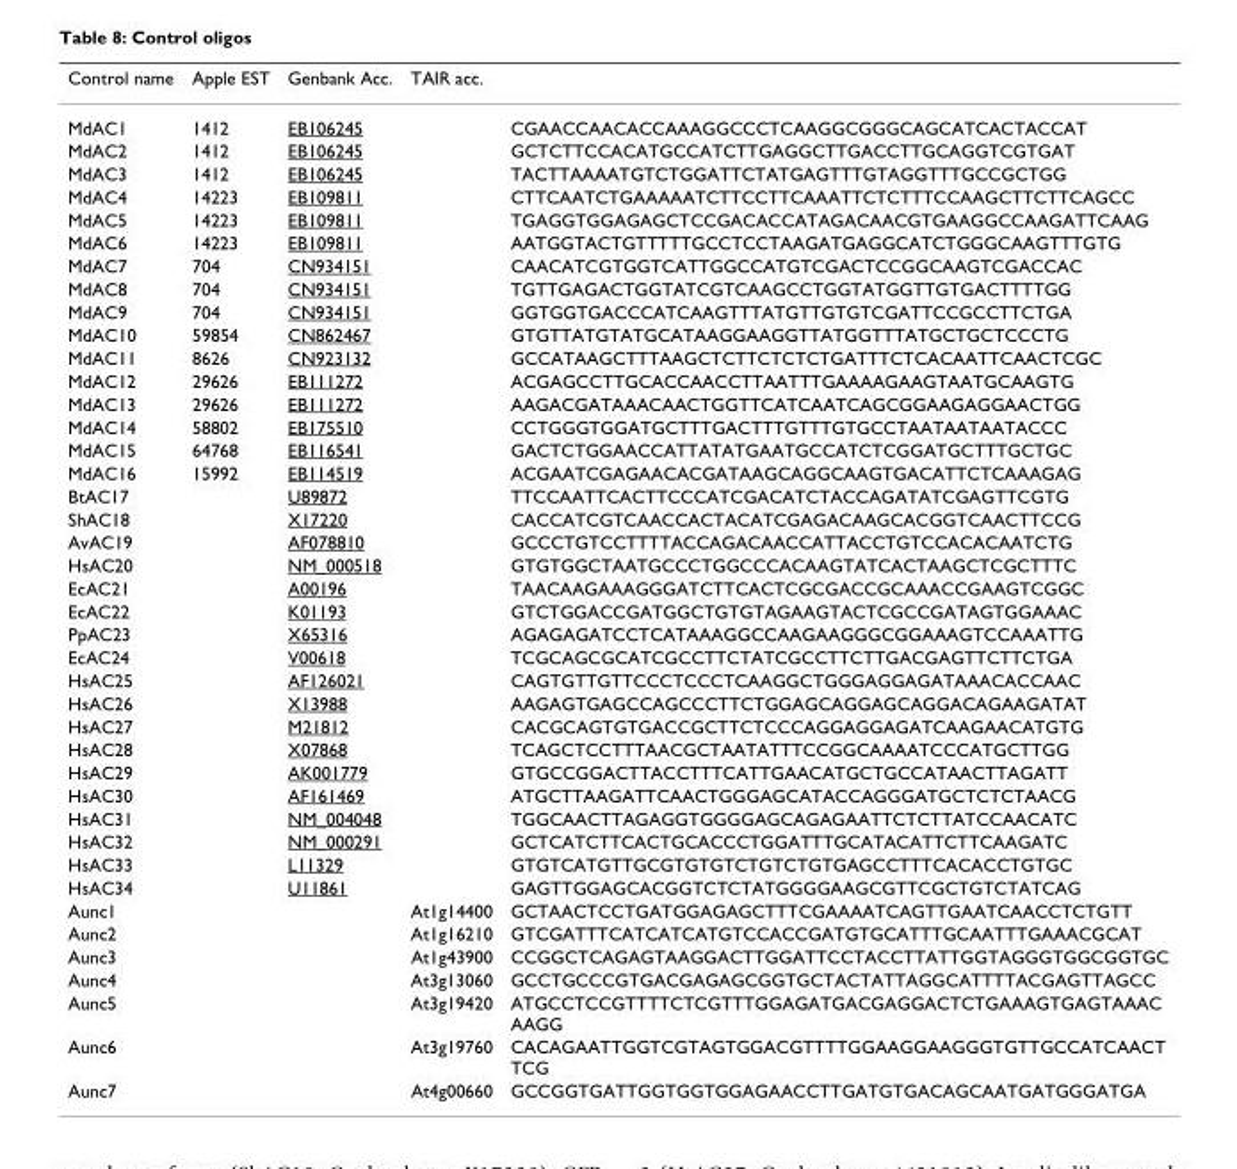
<table><thead><tr><td>Control name</td><td>Apple EST</td><td>Genbank Acc.</td><td>TAIR acc.</td><td></td></tr></thead><tbody><tr><td>MdAC1</td><td>1412</td><td>EB106245</td><td></td><td>CGAACCAACACCAAAGGCCCTCAAGGCGGGCAGCATCACTACCAT</td></tr><tr><td>MdAC2</td><td>1412</td><td>EB106245</td><td></td><td>GCTCTTCCACATGCCATCTTGAGGCTTGACCTTGCAGGTCGTGAT</td></tr><tr><td>MdAC3</td><td>1412</td><td>EB106245</td><td></td><td>TACTTAAAATGTCTGGATTCTATGAGTTTGTAGGTTTGCCGCTGG</td></tr><tr><td>MdAC4</td><td>14223</td><td>EB109811</td><td></td><td>CTTCAATCTGAAAAATCTTCCTTCAAATTCTCTTTCCAAGCTTCTTCAGCC</td></tr><tr><td>MdAC5</td><td>14223</td><td>EB109811</td><td></td><td>TGAGGTGGAGAGCTCCGACACCATAGACAACGTGAAGGCCAAGATTCAAG</td></tr><tr><td>MdAC6</td><td>14223</td><td>EB109811</td><td></td><td>AATGGTACTGTTTTTGCCTCCTAAGATGAGGCATCTGGGCAAGTTTGTG</td></tr><tr><td>MdAC7</td><td>704</td><td>CN934151</td><td></td><td>CAACATCGTGGTCATTGGCCATGTCGACTCCGGCAAGTCGACCAC</td></tr><tr><td>MdAC8</td><td>704</td><td>CN934151</td><td></td><td>TGTTGAGACTGGTATCGTCAAGCCTGGTATGGTTGTGACTTTTGG</td></tr><tr><td>MdAC9</td><td>704</td><td>CN934151</td><td></td><td>GGTGGTGACCCATCAAGTTTATGTTGTGTCGATTCCGCCTTCTGA</td></tr><tr><td>MdAC10</td><td>59854</td><td>CN862467</td><td></td><td>GTGTTATGTATGCATAAGGAAGGTTATGGTTTATGCTGCTCCCTG</td></tr><tr><td>MdAC11</td><td>8626</td><td>CN923132</td><td></td><td>GCCATAAGCTTTAAGCTCTTCTCTCTGATTTCTCACAATTCAACTCGC</td></tr><tr><td>MdAC12</td><td>29626</td><td>EB111272</td><td></td><td>ACGAGCCTTGCACCAACCTTAATTTGAAAAGAAGTAATGCAAGTG</td></tr><tr><td>MdAC13</td><td>29626</td><td>EB111272</td><td></td><td>AAGACGATAAACAACTGGTTCATCAATCAGCGGAAGAGGAACTGG</td></tr><tr><td>MdAC14</td><td>58802</td><td>EB175510</td><td></td><td>CCTGGGTGGATGCTTTGACTTTGTTTGTGCCTAATAATAATACCC</td></tr><tr><td>MdAC15</td><td>64768</td><td>EB116541</td><td></td><td>GACTCTGGAACCATTATATGAATGCCATCTCGGATGCTTTGCTGC</td></tr><tr><td>MdAC16</td><td>15992</td><td>EB114519</td><td></td><td>ACGAATCGAGAACACGATAAGCAGGCAAGTGACATTCTCAAAGAG</td></tr><tr><td>BtAC17</td><td></td><td>U89872</td><td></td><td>TTCCAATTCACTTCCCATCGACATCTACCAGATATCGAGTTCGTG</td></tr><tr><td>ShAC18</td><td></td><td>X17220</td><td></td><td>CACCATCGTCAACCACTACATCGAGACAAGCACGGTCAACTTCCG</td></tr><tr><td>AvAC19</td><td></td><td>AF078810</td><td></td><td>GCCCTGTCCTTTTACCAGACAACCATTACCTGTCCACACAATCTG</td></tr><tr><td>HsAC20</td><td></td><td>NM_000518</td><td></td><td>GTGTGGCTAATGCCCTGGCCCACAAGTATCACTAAGCTCGCTTTC</td></tr><tr><td>EcAC21</td><td></td><td>A00196</td><td></td><td>TAACAAGAAAGGGATCTTCACTCGCGACCGCAAACCGAAGTCGGC</td></tr><tr><td>EcAC22</td><td></td><td>K01193</td><td></td><td>GTCTGGACCGATGGCTGTGTAGAAGTACTCGCCGATAGTGGAAAC</td></tr><tr><td>PpAC23</td><td></td><td>X65316</td><td></td><td>AGAGAGATCCTCATAAAGGCCAAGAAGGGCGGAAAGTCCAAATTG</td></tr><tr><td>EcAC24</td><td></td><td>V00618</td><td></td><td>TCGCAGCGCATCGCCTTCTATCGCCTTCTTGACGAGTTCTTCTGA</td></tr><tr><td>HsAC25</td><td></td><td>AF126021</td><td></td><td>CAGTGTTGTTCCCTCCCTCAAGGCTGGGAGGAGATAAACACCAAC</td></tr><tr><td>HsAC26</td><td></td><td>X13988</td><td></td><td>AAGAGTGAGCCAGCCCTTCTGGAGCAGGAGCAGGACAGAAGATAT</td></tr><tr><td>HsAC27</td><td></td><td>M21812</td><td></td><td>CACGCAGTGTGACCGCTTCTCCCAGGAGGAGATCAAGAACATGTG</td></tr><tr><td>HsAC28</td><td></td><td>X07868</td><td></td><td>TCAGCTCCTTTAACGCTAATATTTCCGGCAAAATCCCATGCTTGG</td></tr><tr><td>HsAC29</td><td></td><td>AK001779</td><td></td><td>GTGCCGGACTTACCTTTCATTGAACATGCTGCCATAACTTAGATT</td></tr><tr><td>HsAC30</td><td></td><td>AF161469</td><td></td><td>ATGCTTAAGATTCAACTGGGAGCATACCAGGGATGCTCTCTAACG</td></tr><tr><td>HsAC31</td><td></td><td>NM_004048</td><td></td><td>TGGCAACTTAGAGGTGGGGAGCAGAGAATTCTCTTATCCAACATC</td></tr><tr><td>HsAC32</td><td></td><td>NM_000291</td><td></td><td>GCTCATCTTCACTGCACCCTGGATTTGCATACATTCTTCAAGATC</td></tr><tr><td>HsAC33</td><td></td><td>L11329</td><td></td><td>GTGTCATGTTGCGTGTGTCTGTCTGTGAGCCTTTCACACCTGTGC</td></tr><tr><td>HsAC34</td><td></td><td>U11861</td><td></td><td>GAGTTGGAGCACGGTCTCTATGGGGAAGCGTTCGCTGTCTATCAG</td></tr><tr><td>Aunc1</td><td></td><td></td><td>At1g14400</td><td>GCTAACTCCTGATGGAGAGCTTTCGAAAATCAGTTGAATCAACCTCTGTT</td></tr><tr><td>Aunc2</td><td></td><td></td><td>At1g16210</td><td>GTCGATTTCATCATCATGTCCACCGATGTGCATTTGCAATTTGAAACGCAT</td></tr><tr><td>Aunc3</td><td></td><td></td><td>At1g43900</td><td>CCGGCTCAGAGTAAGGACTTGGATTCCTACCTTATTGGTAGGGTGGCGGTGC</td></tr><tr><td>Aunc4</td><td></td><td></td><td>At3g13060</td><td>GCCTGCCCGTGACGAGAGCGGTGCTACTATTAGGCATTTTACGAGTTAGCC</td></tr><tr><td>Aunc5</td><td></td><td></td><td>At3g19420</td><td>ATGCCTCCGTTTTCTCGTTTGGAGATGACGAGGACTCTGAAAGTGAGTAAAC AAGG</td></tr><tr><td>Aunc6</td><td></td><td></td><td>At3g19760</td><td>CACAGAATTGGTCGTAGTGGACGTTTTGGAAGGAAGGGTGTTGCCATCAACT TCG</td></tr><tr><td>Aunc7</td><td></td><td></td><td>At4g00660</td><td>GCCGGTGATTGGTGGTGGAGAACCTTGATGTGACAGCAATGATGGGATGA</td></tr></tbody></table>